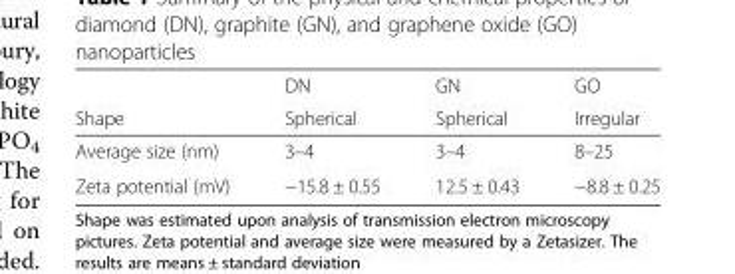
<table><thead><tr><td rowspan="2">Shape</td><td rowspan="2">DN Spherical</td><td rowspan="2">GN Spherical</td><td rowspan="2">GO Irregular</td></tr><tr></tr></thead><tbody><tr><td>Average size (nm)</td><td>3–4</td><td>3–4</td><td>8–25</td></tr><tr><td>Zeta potential (mV)</td><td>−15.8 ± 0.55</td><td>12.5 ± 0.43</td><td>−8.8 ± 0.25</td></tr></tbody></table>